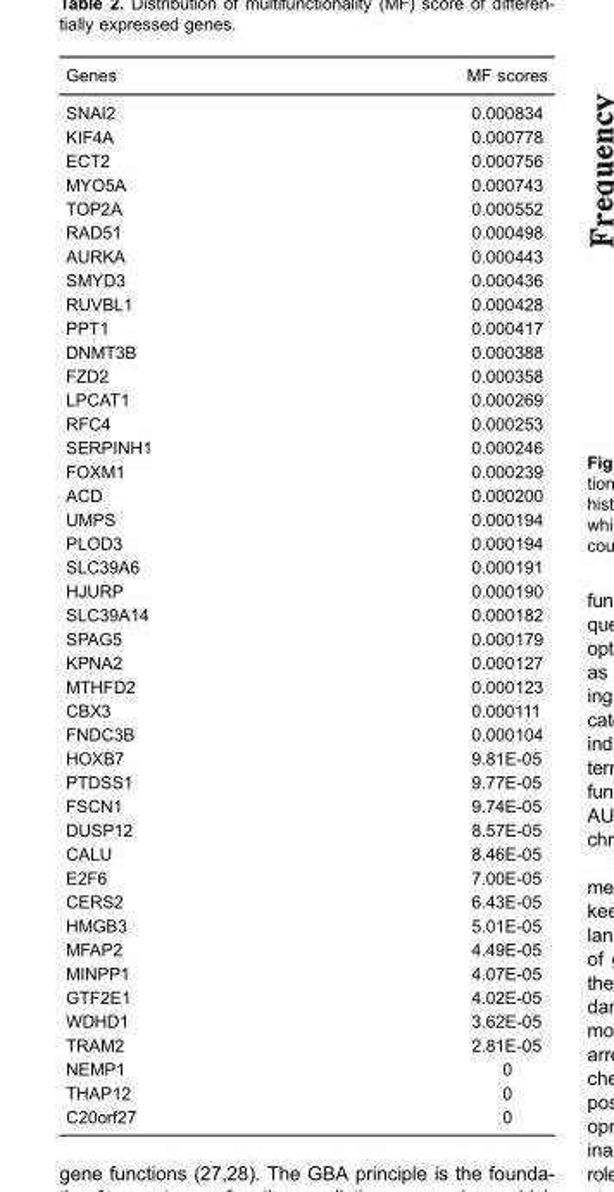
<table><thead><tr><td>Genes</td><td>MF scores</td></tr></thead><tbody><tr><td>SNAI2</td><td>0.000834</td></tr><tr><td>KIF4A</td><td>0.000778</td></tr><tr><td>ECT2</td><td>0.000756</td></tr><tr><td>MYO5A</td><td>0.000743</td></tr><tr><td>TOP2A</td><td>0.000552</td></tr><tr><td>RAD51</td><td>0.000498</td></tr><tr><td>AURKA</td><td>0.000443</td></tr><tr><td>SMYD3</td><td>0.000436</td></tr><tr><td>RUVBL1</td><td>0.000428</td></tr><tr><td>PPT1</td><td>0.000417</td></tr><tr><td>DNMT3B</td><td>0.000388</td></tr><tr><td>FZD2</td><td>0.000358</td></tr><tr><td>LPCAT1</td><td>0.000269</td></tr><tr><td>RFC4</td><td>0.000253</td></tr><tr><td>SERPINH1</td><td>0.000246</td></tr><tr><td>FOXM1</td><td>0.000239</td></tr><tr><td>ACD</td><td>0.000200</td></tr><tr><td>UMPS</td><td>0.000194</td></tr><tr><td>PLOD3</td><td>0.000194</td></tr><tr><td>SLC39A6</td><td>0.000191</td></tr><tr><td>HJURP</td><td>0.000190</td></tr><tr><td>SLC39A14</td><td>0.000182</td></tr><tr><td>SPAG5</td><td>0.000179</td></tr><tr><td>KPNA2</td><td>0.000127</td></tr><tr><td>MTHFD2</td><td>0.000123</td></tr><tr><td>CBX3</td><td>0.000111</td></tr><tr><td>FNDC3B</td><td>0.000104</td></tr><tr><td>HOXB7</td><td>9.81E-05</td></tr><tr><td>PTDSS1</td><td>9.77E-05</td></tr><tr><td>FSCN1</td><td>9.74E-05</td></tr><tr><td>DUSP12</td><td>8.57E-05</td></tr><tr><td>CALU</td><td>8.46E-05</td></tr><tr><td>E2F6</td><td>7.00E-05</td></tr><tr><td>CERS2</td><td>6.43E-05</td></tr><tr><td>HMGB3</td><td>5.01E-05</td></tr><tr><td>MFAP2</td><td>4.49E-05</td></tr><tr><td>MINPP1</td><td>4.07E-05</td></tr><tr><td>GTF2E1</td><td>4.02E-05</td></tr><tr><td>WDHD1</td><td>3.62E-05</td></tr><tr><td>TRAM2</td><td>2.81E-05</td></tr><tr><td>NEMP1</td><td>0</td></tr><tr><td>THAP12</td><td>0</td></tr><tr><td>C20orf27</td><td>0</td></tr></tbody></table>